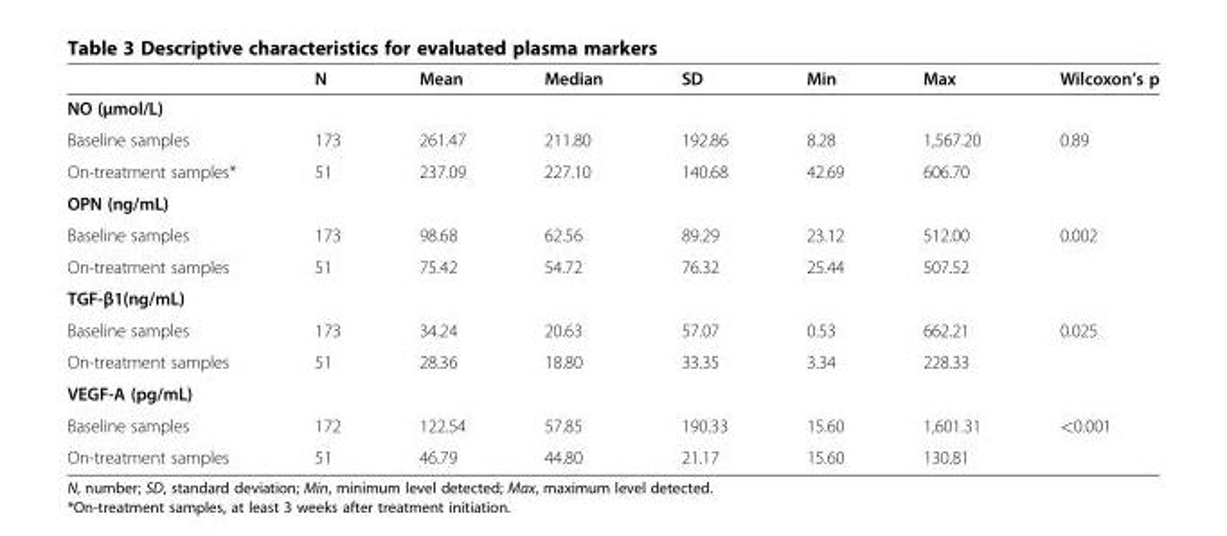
<table><thead><tr><td></td><td>N</td><td>Mean</td><td>Median</td><td>SD</td><td>Min</td><td>Max</td><td>Wilcoxon’s p</td></tr></thead><tbody><tr><td colspan="8">NO (μmol/L)</td></tr><tr><td>Baseline samples</td><td>173</td><td>261.47</td><td>211.80</td><td>192.86</td><td>8.28</td><td>1,567.20</td><td>0.89</td></tr><tr><td>On-treatment samples*</td><td>51</td><td>237.09</td><td>227.10</td><td>140.68</td><td>42.69</td><td>606.70</td><td></td></tr><tr><td colspan="8">OPN (ng/mL)</td></tr><tr><td>Baseline samples</td><td>173</td><td>98.68</td><td>62.56</td><td>89.29</td><td>23.12</td><td>512.00</td><td>0.002</td></tr><tr><td>On-treatment samples</td><td>51</td><td>75.42</td><td>54.72</td><td>76.32</td><td>25.44</td><td>507.52</td><td></td></tr><tr><td colspan="8">TGF-β1(ng/mL)</td></tr><tr><td>Baseline samples</td><td>173</td><td>34.24</td><td>20.63</td><td>57.07</td><td>0.53</td><td>662.21</td><td>0.025</td></tr><tr><td>On-treatment samples</td><td>51</td><td>28.36</td><td>18.80</td><td>33.35</td><td>3.34</td><td>228.33</td><td></td></tr><tr><td colspan="8">VEGF-A (pg/mL)</td></tr><tr><td>Baseline samples</td><td>172</td><td>122.54</td><td>57.85</td><td>190.33</td><td>15.60</td><td>1,601.31</td><td>&lt;0.001</td></tr><tr><td>On-treatment samples</td><td>51</td><td>46.79</td><td>44.80</td><td>21.17</td><td>15.60</td><td>130.81</td><td></td></tr></tbody></table>